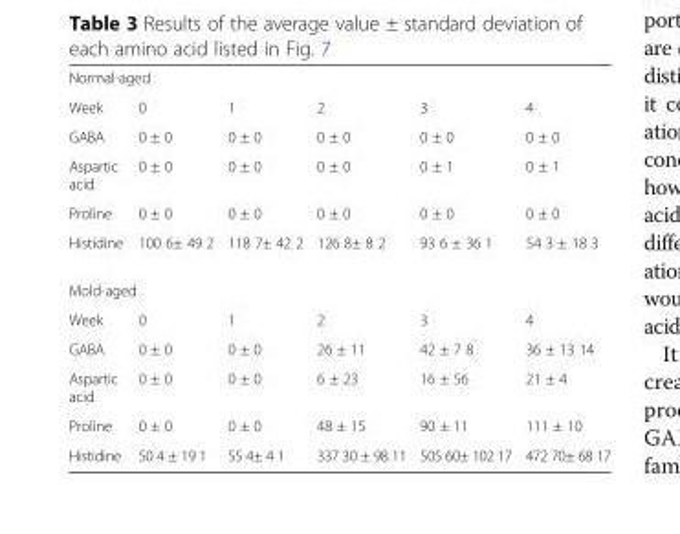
<table><tbody><tr><td colspan="6">Normal-aged</td></tr><tr><td>Week</td><td>0</td><td>1</td><td>2</td><td>3</td><td>4</td></tr><tr><td>GABA</td><td>0 ± 0</td><td>0 ± 0</td><td>0 ± 0</td><td>0 ± 0</td><td>0 ± 0</td></tr><tr><td>Aspartic acid</td><td>0 ± 0</td><td>0 ± 0</td><td>0 ± 0</td><td>0 ± 1</td><td>0 ± 1</td></tr><tr><td>Proline</td><td>0 ± 0</td><td>0 ± 0</td><td>0 ± 0</td><td>0 ± 0</td><td>0 ± 0</td></tr><tr><td>Histidine</td><td>100 6± 49 2</td><td>118 7± 42 2</td><td>126 8± 8 2</td><td>93 6 ± 36 1</td><td>54 3 ± 18 3</td></tr><tr><td colspan="6">Mold-aged</td></tr><tr><td>Week</td><td>0</td><td>1</td><td>2</td><td>3</td><td>4</td></tr><tr><td>GABA</td><td>0 ± 0</td><td>0 ± 0</td><td>26 ± 11</td><td>42 ± 7 8</td><td>36 ± 13 14</td></tr><tr><td>Aspartic acid</td><td>0 ± 0</td><td>0 ± 0</td><td>6 ± 23</td><td>16 ± 56</td><td>21 ± 4</td></tr><tr><td>Proline</td><td>0 ± 0</td><td>0 ± 0</td><td>48 ± 15</td><td>90 ± 11</td><td>111 ± 10</td></tr><tr><td>Histidine</td><td>50 4 ± 19 1</td><td>55 4± 4 1</td><td>337 30 ± 98 11</td><td>505 60± 102 17</td><td>472 70± 68 17</td></tr></tbody></table>